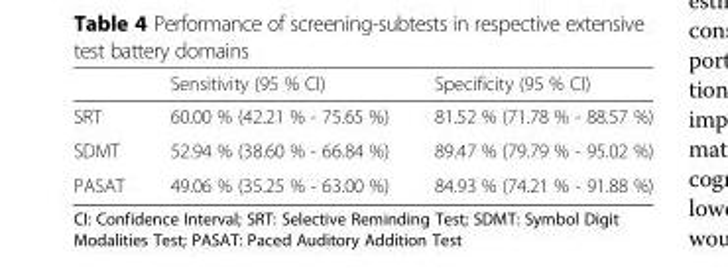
<table><thead><tr><td></td><td>Sensitivity (95 % CI)</td><td>Specificity (95 % CI)</td></tr></thead><tbody><tr><td>SRT</td><td>60.00 % (42.21 % - 75.65 %)</td><td>81.52 % (71.78 % - 88.57 %)</td></tr><tr><td>SDMT</td><td>52.94 % (38.60 % - 66.84 %)</td><td>89.47 % (79.79 % - 95.02 %)</td></tr><tr><td>PASAT</td><td>49.06 % (35.25 % - 63.00 %)</td><td>84.93 % (74.21 % - 91.88 %)</td></tr></tbody></table>